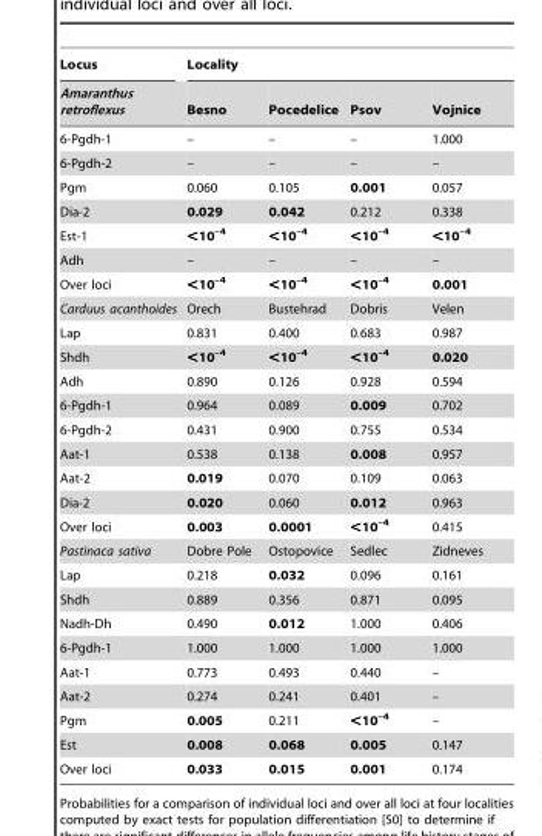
<table><thead><tr><td rowspan="2">Locus Amaranthus retroflexus</td><td colspan="4">Locality</td></tr><tr><td>Besno</td><td>Pocedelice</td><td>Psov</td><td>Vojnice</td></tr></thead><tbody><tr><td>6-Pgdh-1</td><td>–</td><td>–</td><td>–</td><td>1.000</td></tr><tr><td>6-Pgdh-2</td><td>–</td><td>–</td><td>–</td><td>–</td></tr><tr><td>Pgm</td><td>0.060</td><td>0.105</td><td>0.001</td><td>0.057</td></tr><tr><td>Dia-2</td><td>0.029</td><td>0.042</td><td>0.212</td><td>0.338</td></tr><tr><td>Est-1</td><td>&lt;10<sup>–4</sup></td><td>&lt;10<sup>–4</sup></td><td>&lt;10<sup>–4</sup></td><td>&lt;10<sup>–4</sup></td></tr><tr><td>Adh</td><td>–</td><td>–</td><td>–</td><td>–</td></tr><tr><td>Over loci</td><td>&lt;10<sup>–4</sup></td><td>&lt;10<sup>–4</sup></td><td>&lt;10<sup>–4</sup></td><td>0.001</td></tr><tr><td>Carduus acanthoides</td><td>Orech</td><td>Bustehrad</td><td>Dobris</td><td>Velen</td></tr><tr><td>Lap</td><td>0.831</td><td>0.400</td><td>0.683</td><td>0.987</td></tr><tr><td>Shdh</td><td>&lt;10<sup>–4</sup></td><td>&lt;10<sup>–4</sup></td><td>&lt;10<sup>–4</sup></td><td>0.020</td></tr><tr><td>Adh</td><td>0.890</td><td>0.126</td><td>0.928</td><td>0.594</td></tr><tr><td>6-Pgdh-1</td><td>0.964</td><td>0.089</td><td>0.009</td><td>0.702</td></tr><tr><td>6-Pgdh-2</td><td>0.431</td><td>0.900</td><td>0.755</td><td>0.534</td></tr><tr><td>Aat-1</td><td>0.538</td><td>0.138</td><td>0.008</td><td>0.957</td></tr><tr><td>Aat-2</td><td>0.019</td><td>0.070</td><td>0.109</td><td>0.063</td></tr><tr><td>Dia-2</td><td>0.020</td><td>0.060</td><td>0.012</td><td>0.963</td></tr><tr><td>Over loci</td><td>0.003</td><td>0.0001</td><td>&lt;10<sup>–4</sup></td><td>0.415</td></tr><tr><td>Pastinaca sativa</td><td>Dobre Pole</td><td>Ostopovice</td><td>Sedlec</td><td>Zidneves</td></tr><tr><td>Lap</td><td>0.218</td><td>0.032</td><td>0.096</td><td>0.161</td></tr><tr><td>Shdh</td><td>0.889</td><td>0.356</td><td>0.871</td><td>0.095</td></tr><tr><td>Nadh-Dh</td><td>0.490</td><td>0.012</td><td>1.000</td><td>0.406</td></tr><tr><td>6-Pgdh-1</td><td>1.000</td><td>1.000</td><td>1.000</td><td>1.000</td></tr><tr><td>Aat-1</td><td>0.773</td><td>0.493</td><td>0.440</td><td>–</td></tr><tr><td>Aat-2</td><td>0.274</td><td>0.241</td><td>0.401</td><td>–</td></tr><tr><td>Pgm</td><td>0.005</td><td>0.211</td><td>&lt;10<sup>–4</sup></td><td>–</td></tr><tr><td>Est</td><td>0.008</td><td>0.068</td><td>0.005</td><td>0.147</td></tr><tr><td>Over loci</td><td>0.033</td><td>0.015</td><td>0.001</td><td>0.174</td></tr></tbody></table>